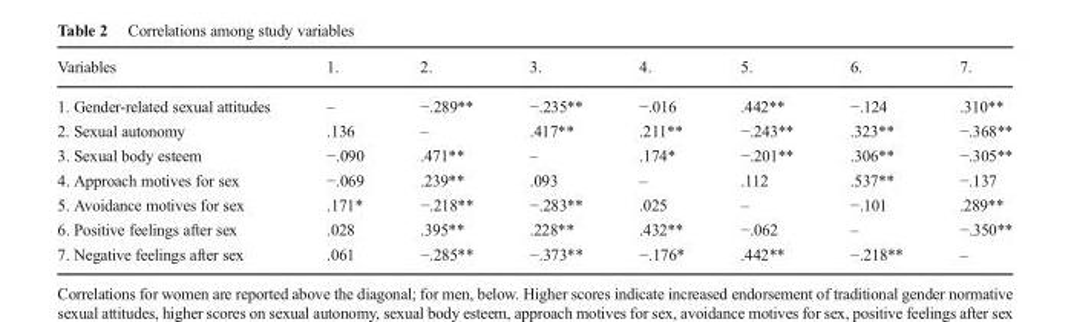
<table><thead><tr><td>Variables</td><td>1.</td><td>2.</td><td>3.</td><td>4.</td><td>5.</td><td>6.</td><td>7.</td></tr></thead><tbody><tr><td>1. Gender-related sexual attitudes</td><td>–</td><td>−.289**</td><td>−.235**</td><td>−.016</td><td>.442**</td><td>−.124</td><td>.310**</td></tr><tr><td>2. Sexual autonomy</td><td>.136</td><td>–</td><td>.417**</td><td>.211**</td><td>−.243**</td><td>.323**</td><td>−.368**</td></tr><tr><td>3. Sexual body esteem</td><td>−.090</td><td>.471**</td><td>–</td><td>.174*</td><td>−.201**</td><td>.306**</td><td>−.305**</td></tr><tr><td>4. Approach motives for sex</td><td>−.069</td><td>.239**</td><td>.093</td><td>–</td><td>.112</td><td>.537**</td><td>−.137</td></tr><tr><td>5. Avoidance motives for sex</td><td>.171*</td><td>−.218**</td><td>−.283**</td><td>.025</td><td>–</td><td>−.101</td><td>.289**</td></tr><tr><td>6. Positive feelings after sex</td><td>.028</td><td>.395**</td><td>.228**</td><td>.432**</td><td>−.062</td><td>–</td><td>−.350**</td></tr><tr><td>7. Negative feelings after sex</td><td>.061</td><td>−.285**</td><td>−.373**</td><td>−.176*</td><td>.442**</td><td>−.218**</td><td>–</td></tr></tbody></table>